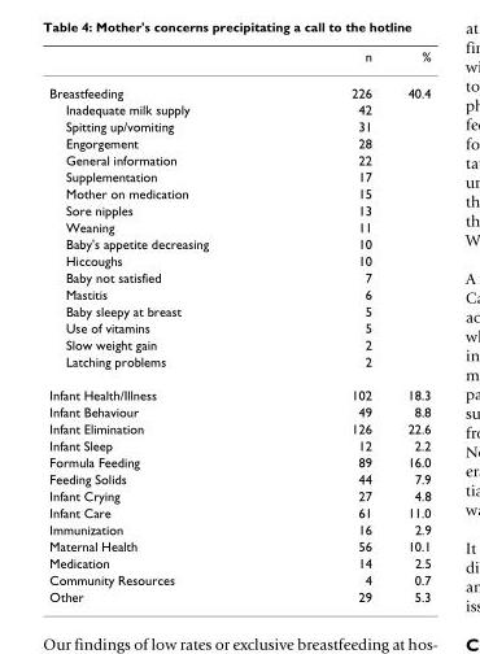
<table><thead><tr><td></td><td>n</td><td>%</td></tr></thead><tbody><tr><td>Breastfeeding</td><td>226</td><td>40.4</td></tr><tr><td>Inadequate milk supply</td><td>42</td><td></td></tr><tr><td>Spitting up/vomiting</td><td>31</td><td></td></tr><tr><td>Engorgement</td><td>28</td><td></td></tr><tr><td>General information</td><td>22</td><td></td></tr><tr><td>Supplementation</td><td>17</td><td></td></tr><tr><td>Mother on medication</td><td>15</td><td></td></tr><tr><td>Sore nipples</td><td>13</td><td></td></tr><tr><td>Weaning</td><td>11</td><td></td></tr><tr><td>Baby&#x27;s appetite decreasing</td><td>10</td><td></td></tr><tr><td>Hiccoughs</td><td>10</td><td></td></tr><tr><td>Baby not satisfied</td><td>7</td><td></td></tr><tr><td>Mastitis</td><td>6</td><td></td></tr><tr><td>Baby sleepy at breast</td><td>5</td><td></td></tr><tr><td>Use of vitamins</td><td>5</td><td></td></tr><tr><td>Slow weight gain</td><td>2</td><td></td></tr><tr><td>Latching problems</td><td>2</td><td></td></tr><tr><td>Infant Health/Illness</td><td>102</td><td>18.3</td></tr><tr><td>Infant Behaviour</td><td>49</td><td>8.8</td></tr><tr><td>Infant Elimination</td><td>126</td><td>22.6</td></tr><tr><td>Infant Sleep</td><td>12</td><td>2.2</td></tr><tr><td>Formula Feeding</td><td>89</td><td>16.0</td></tr><tr><td>Feeding Solids</td><td>44</td><td>7.9</td></tr><tr><td>Infant Crying</td><td>27</td><td>4.8</td></tr><tr><td>Infant Care</td><td>61</td><td>11.0</td></tr><tr><td>Immunization</td><td>16</td><td>2.9</td></tr><tr><td>Maternal Health</td><td>56</td><td>10.1</td></tr><tr><td>Medication</td><td>14</td><td>2.5</td></tr><tr><td>Community Resources</td><td>4</td><td>0.7</td></tr><tr><td>Other</td><td>29</td><td>5.3</td></tr></tbody></table>